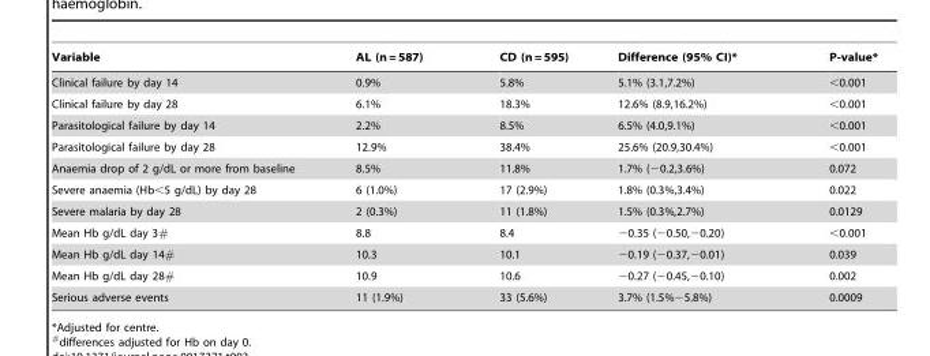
<table><thead><tr><td>Variable</td><td>AL (n = 587)</td><td>CD (n = 595)</td><td>Difference (95% CI)*</td><td>P-value*</td></tr></thead><tbody><tr><td>Clinical failure by day 14</td><td>0.9%</td><td>5.8%</td><td>5.1% (3.1,7.2%)</td><td>&lt;0.001</td></tr><tr><td>Clinical failure by day 28</td><td>6.1%</td><td>18.3%</td><td>12.6% (8.9,16.2%)</td><td>&lt;0.001</td></tr><tr><td>Parasitological failure by day 14</td><td>2.2%</td><td>8.5%</td><td>6.5% (4.0,9.1%)</td><td>&lt;0.001</td></tr><tr><td>Parasitological failure by day 28</td><td>12.9%</td><td>38.4%</td><td>25.6% (20.9,30.4%)</td><td>&lt;0.001</td></tr><tr><td>Anaemia drop of 2 g/dL or more from baseline</td><td>8.5%</td><td>11.8%</td><td>1.7% (−0.2,3.6%)</td><td>0.072</td></tr><tr><td>Severe anaemia (Hb&lt;5 g/dL) by day 28</td><td>6 (1.0%)</td><td>17 (2.9%)</td><td>1.8% (0.3%,3.4%)</td><td>0.022</td></tr><tr><td>Severe malaria by day 28</td><td>2 (0.3%)</td><td>11 (1.8%)</td><td>1.5% (0.3%,2.7%)</td><td>0.0129</td></tr><tr><td>Mean Hb g/dL day 3#</td><td>8.8</td><td>8.4</td><td>−0.35 (−0.50,−0.20)</td><td>&lt;0.001</td></tr><tr><td>Mean Hb g/dL day 14#</td><td>10.3</td><td>10.1</td><td>−0.19 (−0.37,−0.01)</td><td>0.039</td></tr><tr><td>Mean Hb g/dL day 28#</td><td>10.9</td><td>10.6</td><td>−0.27 (−0.45,−0.10)</td><td>0.002</td></tr><tr><td>Serious adverse events</td><td>11 (1.9%)</td><td>33 (5.6%)</td><td>3.7% (1.5%−5.8%)</td><td>0.0009</td></tr></tbody></table>